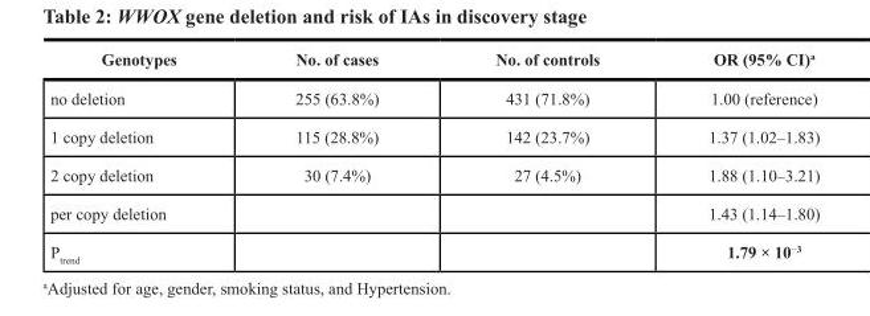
<table><thead><tr><td>Genotypes</td><td>No. of cases</td><td>No. of controls</td><td>OR (95% CI)<sup>a</sup></td></tr></thead><tbody><tr><td>no deletion</td><td>255 (63.8%)</td><td>431 (71.8%)</td><td>1.00 (reference)</td></tr><tr><td>1 copy deletion</td><td>115 (28.8%)</td><td>142 (23.7%)</td><td>1.37 (1.02–1.83)</td></tr><tr><td>2 copy deletion</td><td>30 (7.4%)</td><td>27 (4.5%)</td><td>1.88 (1.10–3.21)</td></tr><tr><td>per copy deletion</td><td></td><td></td><td>1.43 (1.14–1.80)</td></tr><tr><td>P<sub>trend</sub></td><td></td><td></td><td>1.79 × 10<sup>−3</sup></td></tr></tbody></table>